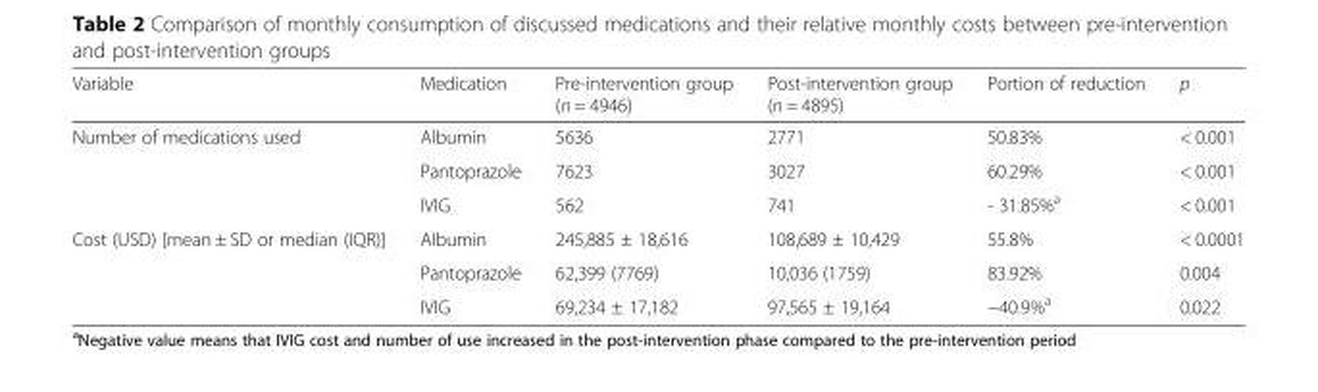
<table><thead><tr><td>Variable</td><td>Medication</td><td>Pre-intervention group (n = 4946)</td><td>Post-intervention group (n = 4895)</td><td>Portion of reduction</td><td>p</td></tr></thead><tbody><tr><td rowspan="3">Number of medications used</td><td>Albumin</td><td>5636</td><td>2771</td><td>50.83%</td><td>&lt; 0.001</td></tr><tr><td>Pantoprazole</td><td>7623</td><td>3027</td><td>60.29%</td><td>&lt; 0.001</td></tr><tr><td>IVIG</td><td>562</td><td>741</td><td>- 31.85%<sup>a</sup></td><td>&lt; 0.001</td></tr><tr><td rowspan="3">Cost (USD) [mean ± SD or median (IQR)]</td><td>Albumin</td><td>245,885 ± 18,616</td><td>108,689 ± 10,429</td><td>55.8%</td><td>&lt; 0.0001</td></tr><tr><td>Pantoprazole</td><td>62,399 (7769)</td><td>10,036 (1759)</td><td>83.92%</td><td>0.004</td></tr><tr><td>IVIG</td><td>69,234 ± 17,182</td><td>97,565 ± 19,164</td><td>−40.9%<sup>a</sup></td><td>0.022</td></tr></tbody></table>